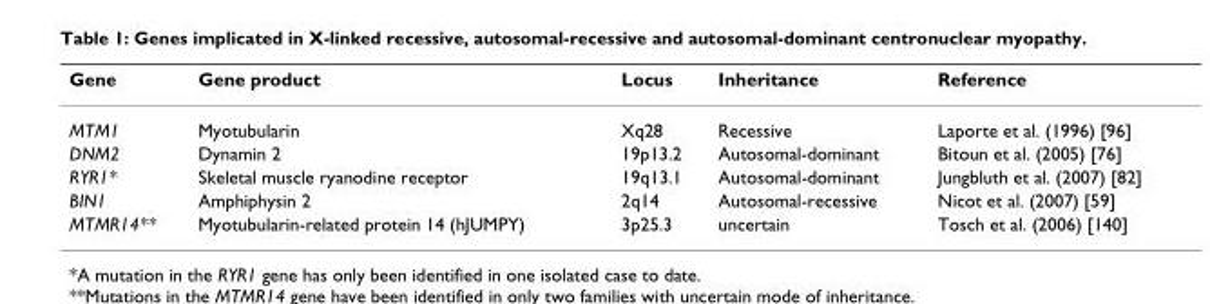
<table><thead><tr><td>Gene</td><td>Gene product</td><td>Locus</td><td>Inheritance</td><td>Reference</td></tr></thead><tbody><tr><td>MTM1</td><td>Myotubularin</td><td>Xq28</td><td>Recessive</td><td>Laporte et al. (1996) [96]</td></tr><tr><td>DNM2</td><td>Dynamin 2</td><td>19p13.2</td><td>Autosomal-dominant</td><td>Bitoun et al. (2005) [76]</td></tr><tr><td>RYR1*</td><td>Skeletal muscle ryanodine receptor</td><td>19q13.1</td><td>Autosomal-dominant</td><td>Jungbluth et al. (2007) [82]</td></tr><tr><td>BIN1</td><td>Amphiphysin 2</td><td>2q14</td><td>Autosomal-recessive</td><td>Nicot et al. (2007) [59]</td></tr><tr><td>MTMR14**</td><td>Myotubularin-related protein 14 (hJUMPY)</td><td>3p25.3</td><td>uncertain</td><td>Tosch et al. (2006) [140]</td></tr></tbody></table>